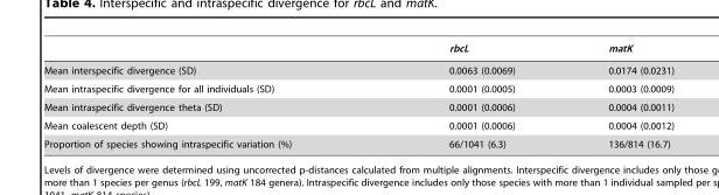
<table><thead><tr><td></td><td>rbcL</td><td>matK</td></tr></thead><tbody><tr><td>Mean interspecific divergence (SD)</td><td>0.0063 (0.0069)</td><td>0.0174 (0.0231)</td></tr><tr><td>Mean intraspecific divergence for all individuals (SD)</td><td>0.0001 (0.0005)</td><td>0.0003 (0.0009)</td></tr><tr><td>Mean intraspecific divergence theta (SD)</td><td>0.0001 (0.0006)</td><td>0.0004 (0.0011)</td></tr><tr><td>Mean coalescent depth (SD)</td><td>0.0001 (0.0006)</td><td>0.0004 (0.0012)</td></tr><tr><td>Proportion of species showing intraspecific variation (%)</td><td>66/1041 (6.3)</td><td>136/814 (16.7)</td></tr></tbody></table>